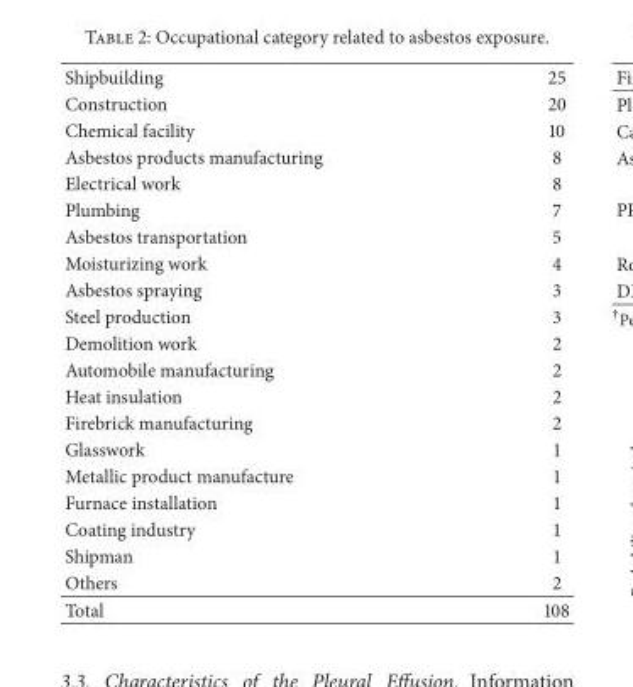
<table><tbody><tr><td>Shipbuilding</td><td>25</td></tr><tr><td>Construction</td><td>20</td></tr><tr><td>Chemical facility</td><td>10</td></tr><tr><td>Asbestos products manufacturing</td><td>8</td></tr><tr><td>Electrical work</td><td>8</td></tr><tr><td>Plumbing</td><td>7</td></tr><tr><td>Asbestos transportation</td><td>5</td></tr><tr><td>Moisturizing work</td><td>4</td></tr><tr><td>Asbestos spraying</td><td>3</td></tr><tr><td>Steel production</td><td>3</td></tr><tr><td>Demolition work</td><td>2</td></tr><tr><td>Automobile manufacturing</td><td>2</td></tr><tr><td>Heat insulation</td><td>2</td></tr><tr><td>Firebrick manufacturing</td><td>2</td></tr><tr><td>Glasswork</td><td>1</td></tr><tr><td>Metallic product manufacture</td><td>1</td></tr><tr><td>Furnace installation</td><td>1</td></tr><tr><td>Coating industry</td><td>1</td></tr><tr><td>Shipman</td><td>1</td></tr><tr><td>Others</td><td>2</td></tr><tr><td>Total</td><td>108</td></tr></tbody></table>